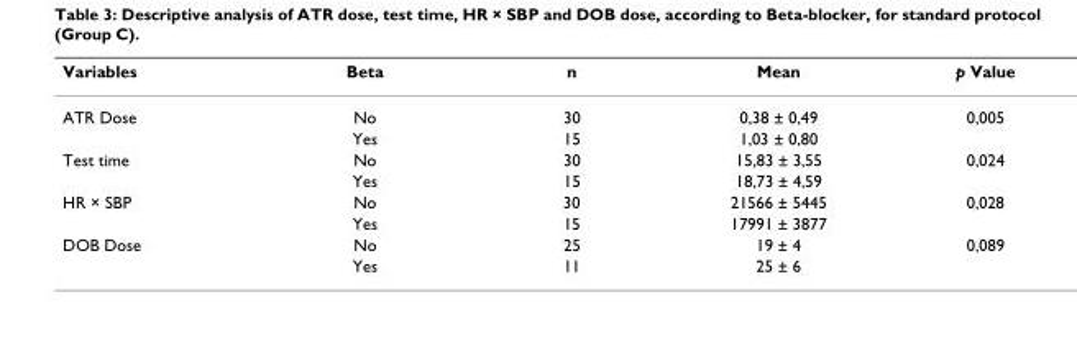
<table><thead><tr><td>Variables</td><td>Beta</td><td>n</td><td>Mean</td><td>p Value</td></tr></thead><tbody><tr><td rowspan="2">ATR Dose</td><td>No</td><td>30</td><td>0,38 ± 0,49</td><td>0,005</td></tr><tr><td>Yes</td><td>15</td><td>1,03 ± 0,80</td><td></td></tr><tr><td rowspan="2">Test time</td><td>No</td><td>30</td><td>15,83 ± 3,55</td><td>0,024</td></tr><tr><td>Yes</td><td>15</td><td>18,73 ± 4,59</td><td></td></tr><tr><td rowspan="2">HR × SBP</td><td>No</td><td>30</td><td>21566 ± 5445</td><td>0,028</td></tr><tr><td>Yes</td><td>15</td><td>17991 ± 3877</td><td></td></tr><tr><td rowspan="2">DOB Dose</td><td>No</td><td>25</td><td>19 ± 4</td><td>0,089</td></tr><tr><td>Yes</td><td>11</td><td>25 ± 6</td><td></td></tr></tbody></table>